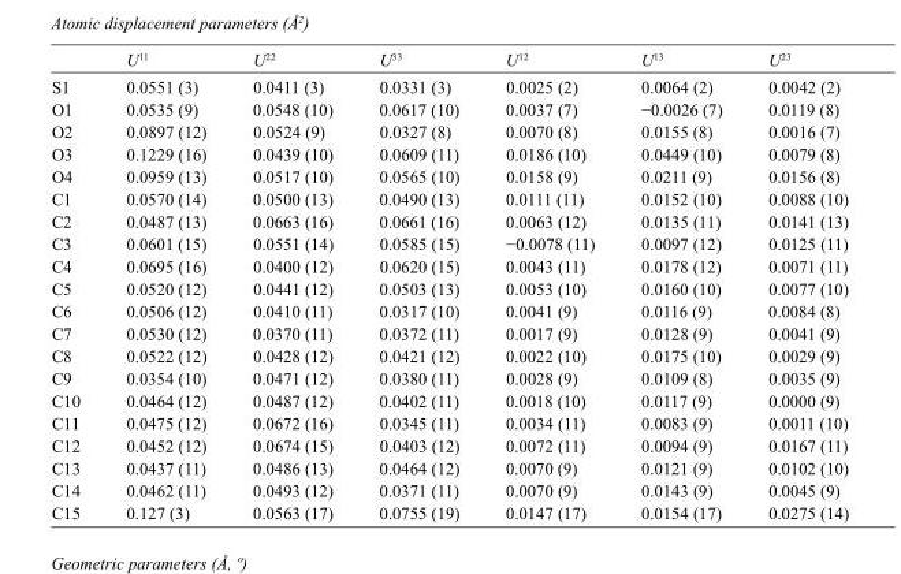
<table><thead><tr><td></td><td>U<sup>11</sup></td><td>U<sup>22</sup></td><td>U<sup>33</sup></td><td>U<sup>12</sup></td><td>U<sup>13</sup></td><td>U<sup>23</sup></td></tr></thead><tbody><tr><td>S1</td><td>0.0551 (3)</td><td>0.0411 (3)</td><td>0.0331 (3)</td><td>0.0025 (2)</td><td>0.0064 (2)</td><td>0.0042 (2)</td></tr><tr><td>O1</td><td>0.0535 (9)</td><td>0.0548 (10)</td><td>0.0617 (10)</td><td>0.0037 (7)</td><td>−0.0026 (7)</td><td>0.0119 (8)</td></tr><tr><td>O2</td><td>0.0897 (12)</td><td>0.0524 (9)</td><td>0.0327 (8)</td><td>0.0070 (8)</td><td>0.0155 (8)</td><td>0.0016 (7)</td></tr><tr><td>O3</td><td>0.1229 (16)</td><td>0.0439 (10)</td><td>0.0609 (11)</td><td>0.0186 (10)</td><td>0.0449 (10)</td><td>0.0079 (8)</td></tr><tr><td>O4</td><td>0.0959 (13)</td><td>0.0517 (10)</td><td>0.0565 (10)</td><td>0.0158 (9)</td><td>0.0211 (9)</td><td>0.0156 (8)</td></tr><tr><td>C1</td><td>0.0570 (14)</td><td>0.0500 (13)</td><td>0.0490 (13)</td><td>0.0111 (11)</td><td>0.0152 (10)</td><td>0.0088 (10)</td></tr><tr><td>C2</td><td>0.0487 (13)</td><td>0.0663 (16)</td><td>0.0661 (16)</td><td>0.0063 (12)</td><td>0.0135 (11)</td><td>0.0141 (13)</td></tr><tr><td>C3</td><td>0.0601 (15)</td><td>0.0551 (14)</td><td>0.0585 (15)</td><td>−0.0078 (11)</td><td>0.0097 (12)</td><td>0.0125 (11)</td></tr><tr><td>C4</td><td>0.0695 (16)</td><td>0.0400 (12)</td><td>0.0620 (15)</td><td>0.0043 (11)</td><td>0.0178 (12)</td><td>0.0071 (11)</td></tr><tr><td>C5</td><td>0.0520 (12)</td><td>0.0441 (12)</td><td>0.0503 (13)</td><td>0.0053 (10)</td><td>0.0160 (10)</td><td>0.0077 (10)</td></tr><tr><td>C6</td><td>0.0506 (12)</td><td>0.0410 (11)</td><td>0.0317 (10)</td><td>0.0041 (9)</td><td>0.0116 (9)</td><td>0.0084 (8)</td></tr><tr><td>C7</td><td>0.0530 (12)</td><td>0.0370 (11)</td><td>0.0372 (11)</td><td>0.0017 (9)</td><td>0.0128 (9)</td><td>0.0041 (9)</td></tr><tr><td>C8</td><td>0.0522 (12)</td><td>0.0428 (12)</td><td>0.0421 (12)</td><td>0.0022 (10)</td><td>0.0175 (10)</td><td>0.0029 (9)</td></tr><tr><td>C9</td><td>0.0354 (10)</td><td>0.0471 (12)</td><td>0.0380 (11)</td><td>0.0028 (9)</td><td>0.0109 (8)</td><td>0.0035 (9)</td></tr><tr><td>C10</td><td>0.0464 (12)</td><td>0.0487 (12)</td><td>0.0402 (11)</td><td>0.0018 (10)</td><td>0.0117 (9)</td><td>0.0000 (9)</td></tr><tr><td>C11</td><td>0.0475 (12)</td><td>0.0672 (16)</td><td>0.0345 (11)</td><td>0.0034 (11)</td><td>0.0083 (9)</td><td>0.0011 (10)</td></tr><tr><td>C12</td><td>0.0452 (12)</td><td>0.0674 (15)</td><td>0.0403 (12)</td><td>0.0072 (11)</td><td>0.0094 (9)</td><td>0.0167 (11)</td></tr><tr><td>C13</td><td>0.0437 (11)</td><td>0.0486 (13)</td><td>0.0464 (12)</td><td>0.0070 (9)</td><td>0.0121 (9)</td><td>0.0102 (10)</td></tr><tr><td>C14</td><td>0.0462 (11)</td><td>0.0493 (12)</td><td>0.0371 (11)</td><td>0.0070 (9)</td><td>0.0143 (9)</td><td>0.0045 (9)</td></tr><tr><td>C15</td><td>0.127 (3)</td><td>0.0563 (17)</td><td>0.0755 (19)</td><td>0.0147 (17)</td><td>0.0154 (17)</td><td>0.0275 (14)</td></tr></tbody></table>